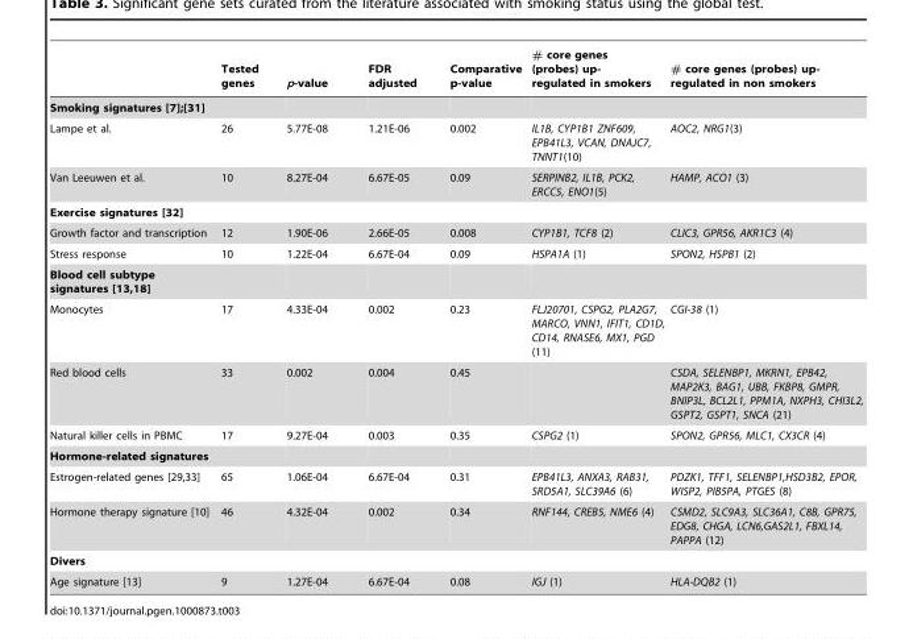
<table><thead><tr><td></td><td>Tested genes</td><td>p-value</td><td>FDR adjusted</td><td>Comparative p-value</td><td># core genes (probes) up- regulated in smokers</td><td># core genes (probes) up- regulated in non smokers</td></tr></thead><tbody><tr><td colspan="7">Smoking signatures [7];[31]</td></tr><tr><td>Lampe et al.</td><td>26</td><td>5.77E-08</td><td>1.21E-06</td><td>0.002</td><td>IL1B, CYP1B1 ZNF609, EPB41L3, VCAN, DNAJC7, TNNT1(10)</td><td>AOC2, NRG1(3)</td></tr><tr><td>Van Leeuwen et al.</td><td>10</td><td>8.27E-04</td><td>6.67E-05</td><td>0.09</td><td>SERPINB2, IL1B, PCK2, ERCC5, ENO1(5)</td><td>HAMP, ACO1 (3)</td></tr><tr><td colspan="7">Exercise signatures [32]</td></tr><tr><td>Growth factor and transcription</td><td>12</td><td>1.90E-06</td><td>2.66E-05</td><td>0.008</td><td>CYP1B1, TCF8 (2)</td><td>CLIC3, GPR56, AKR1C3 (4)</td></tr><tr><td>Stress response</td><td>10</td><td>1.22E-04</td><td>6.67E-04</td><td>0.09</td><td>HSPA1A (1)</td><td>SPON2, HSPB1 (2)</td></tr><tr><td colspan="7">Blood cell subtype signatures [13,18]</td></tr><tr><td>Monocytes</td><td>17</td><td>4.33E-04</td><td>0.002</td><td>0.23</td><td>FLJ20701, CSPG2, PLA2G7, MARCO, VNN1, IFIT1, CD1D, CD14, RNASE6, MX1, PGD (11)</td><td>CGI-38 (1)</td></tr><tr><td>Red blood cells</td><td>33</td><td>0.002</td><td>0.004</td><td>0.45</td><td></td><td>CSDA, SELENBP1, MKRN1, EPB42, MAP2K3, BAG1, UBB, FKBP8, GMPR, BNIP3L, BCL2L1, PPM1A, NXPH3, CHI3L2, GSPT2, GSPT1, SNCA (21)</td></tr><tr><td>Natural killer cells in PBMC</td><td>17</td><td>9.27E-04</td><td>0.003</td><td>0.35</td><td>CSPG2 (1)</td><td>SPON2, GPR56, MLC1, CX3CR (4)</td></tr><tr><td colspan="7">Hormone-related signatures</td></tr><tr><td>Estrogen-related genes [29,33]</td><td>65</td><td>1.06E-04</td><td>6.67E-04</td><td>0.31</td><td>EPB41L3, ANXA3, RAB31, SRD5A1, SLC39A6 (6)</td><td>PDZK1, TFF1, SELENBP1,HSD3B2, EPOR, WISP2, PIB5PA, PTGES (8)</td></tr><tr><td>Hormone therapy signature [10]</td><td>46</td><td>4.32E-04</td><td>0.002</td><td>0.34</td><td>RNF144, CREB5, NME6 (4)</td><td>CSMD2, SLC9A3, SLC36A1, C8B, GPR75, EDG8, CHGA, LCN6,GAS2L1, FBXL14, PAPPA (12)</td></tr><tr><td colspan="7">Divers</td></tr><tr><td>Age signature [13]</td><td>9</td><td>1.27E-04</td><td>6.67E-04</td><td>0.08</td><td>IGJ (1)</td><td>HLA-DQB2 (1)</td></tr></tbody></table>